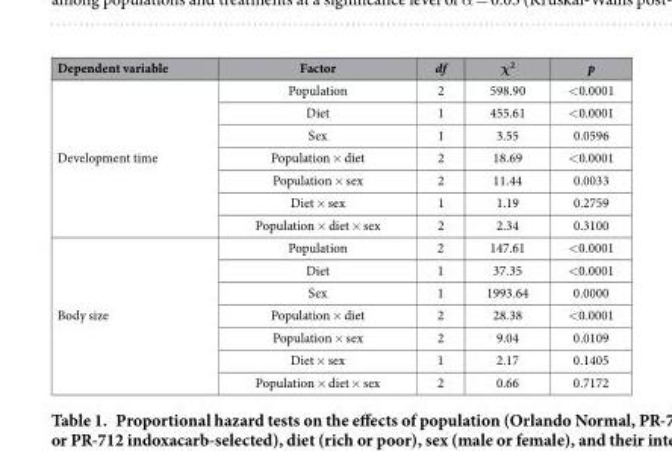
<table><thead><tr><td>Dependent variable</td><td>Factor</td><td>df</td><td>χ<sup>2</sup></td><td>p</td></tr></thead><tbody><tr><td rowspan="7">Development time</td><td>Population</td><td>2</td><td>598.90</td><td>&lt; 0.0001</td></tr><tr><td>Diet</td><td>1</td><td>455.61</td><td>&lt; 0.0001</td></tr><tr><td>Sex</td><td>1</td><td>3.55</td><td>0.0596</td></tr><tr><td>Population × diet</td><td>2</td><td>18.69</td><td>&lt; 0.0001</td></tr><tr><td>Population × sex</td><td>2</td><td>11.44</td><td>0.0033</td></tr><tr><td>Diet × sex</td><td>1</td><td>1.19</td><td>0.2759</td></tr><tr><td>Population × diet × sex</td><td>2</td><td>2.34</td><td>0.3100</td></tr><tr><td rowspan="7">Body size</td><td>Population</td><td>2</td><td>147.61</td><td>&lt; 0.0001</td></tr><tr><td>Diet</td><td>1</td><td>37.35</td><td>&lt; 0.0001</td></tr><tr><td>Sex</td><td>1</td><td>1993.64</td><td>0.0000</td></tr><tr><td>Population × diet</td><td>2</td><td>28.38</td><td>&lt; 0.0001</td></tr><tr><td>Population × sex</td><td>2</td><td>9.04</td><td>0.0109</td></tr><tr><td>Diet × sex</td><td>1</td><td>2.17</td><td>0.1405</td></tr><tr><td>Population × diet × sex</td><td>2</td><td>0.66</td><td>0.7172</td></tr></tbody></table>